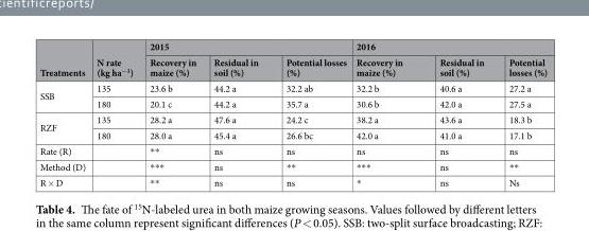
<table><thead><tr><td rowspan="2">Treatments</td><td rowspan="2">N rate (kg ha<sup>−1</sup>)</td><td colspan="3">2015</td><td colspan="3">2016</td></tr><tr><td>Recovery in maize (%)</td><td>Residual in soil (%)</td><td>Potential losses (%)</td><td>Recovery in maize (%)</td><td>Residual in soil (%)</td><td>Potential losses (%)</td></tr></thead><tbody><tr><td rowspan="2">SSB</td><td>135</td><td>23.6 b</td><td>44.2 a</td><td>32.2 ab</td><td>32.2 b</td><td>40.6 a</td><td>27.2 a</td></tr><tr><td>180</td><td>20.1 c</td><td>44.2 a</td><td>35.7 a</td><td>30.6 b</td><td>42.0 a</td><td>27.5 a</td></tr><tr><td rowspan="2">RZF</td><td>135</td><td>28.2 a</td><td>47.6 a</td><td>24.2 c</td><td>38.2 a</td><td>43.6 a</td><td>18.3 b</td></tr><tr><td>180</td><td>28.0 a</td><td>45.4 a</td><td>26.6 bc</td><td>42.0 a</td><td>41.0 a</td><td>17.1 b</td></tr><tr><td>Rate (R)</td><td></td><td>**</td><td>ns</td><td>ns</td><td>ns</td><td>ns</td><td>ns</td></tr><tr><td>Method (D)</td><td></td><td>***</td><td>ns</td><td>**</td><td>***</td><td>ns</td><td>**</td></tr><tr><td>R × D</td><td></td><td>**</td><td>ns</td><td>ns</td><td>*</td><td>ns</td><td>Ns</td></tr></tbody></table>